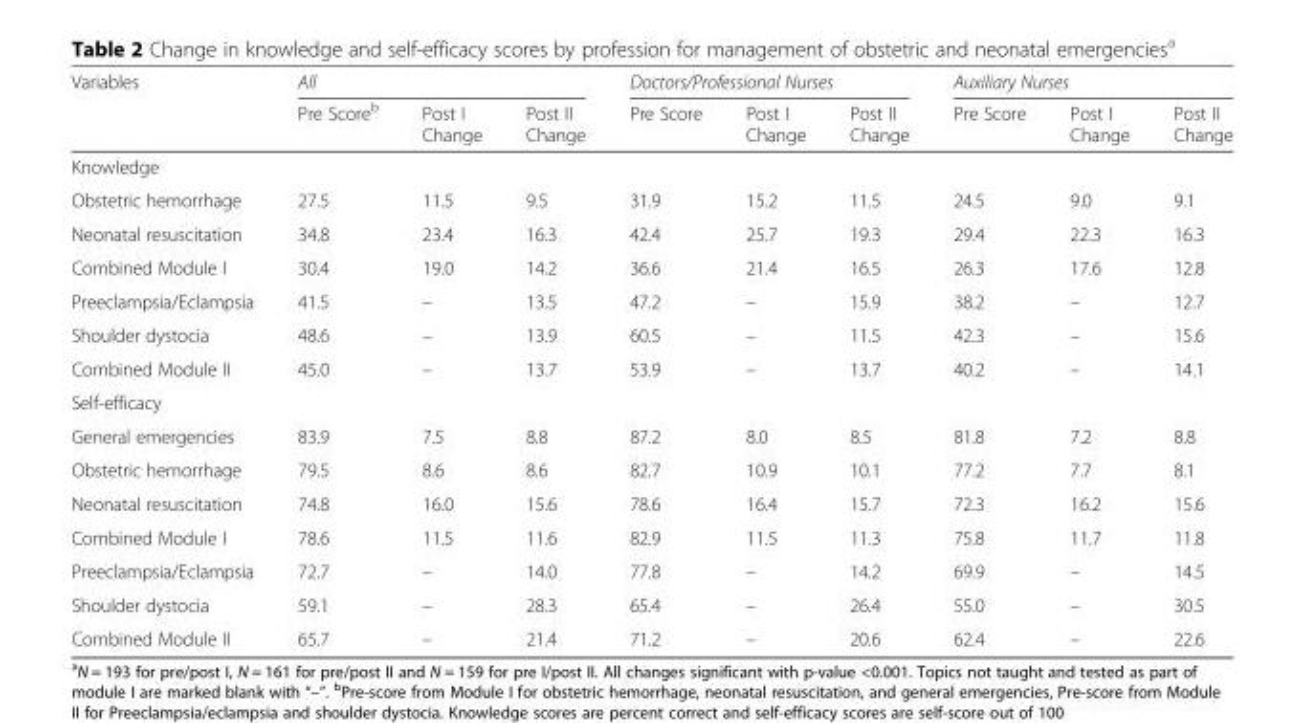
<table><thead><tr><td rowspan="2">Variables</td><td colspan="3">All</td><td colspan="3">Doctors/Professional Nurses</td><td colspan="3">Auxiliary Nurses</td></tr><tr><td>Pre Score<sup>b</sup></td><td>Post I Change</td><td>Post II Change</td><td>Pre Score</td><td>Post I Change</td><td>Post II Change</td><td>Pre Score</td><td>Post I Change</td><td>Post II Change</td></tr></thead><tbody><tr><td colspan="10">Knowledge</td></tr><tr><td>Obstetric hemorrhage</td><td>27.5</td><td>11.5</td><td>9.5</td><td>31.9</td><td>15.2</td><td>11.5</td><td>24.5</td><td>9.0</td><td>9.1</td></tr><tr><td>Neonatal resuscitation</td><td>34.8</td><td>23.4</td><td>16.3</td><td>42.4</td><td>25.7</td><td>19.3</td><td>29.4</td><td>22.3</td><td>16.3</td></tr><tr><td>Combined Module I</td><td>30.4</td><td>19.0</td><td>14.2</td><td>36.6</td><td>21.4</td><td>16.5</td><td>26.3</td><td>17.6</td><td>12.8</td></tr><tr><td>Preeclampsia/Eclampsia</td><td>41.5</td><td>–</td><td>13.5</td><td>47.2</td><td>–</td><td>15.9</td><td>38.2</td><td>–</td><td>12.7</td></tr><tr><td>Shoulder dystocia</td><td>48.6</td><td>–</td><td>13.9</td><td>60.5</td><td>–</td><td>11.5</td><td>42.3</td><td>–</td><td>15.6</td></tr><tr><td>Combined Module II</td><td>45.0</td><td>–</td><td>13.7</td><td>53.9</td><td>–</td><td>13.7</td><td>40.2</td><td>–</td><td>14.1</td></tr><tr><td colspan="10">Self-efficacy</td></tr><tr><td>General emergencies</td><td>83.9</td><td>7.5</td><td>8.8</td><td>87.2</td><td>8.0</td><td>8.5</td><td>81.8</td><td>7.2</td><td>8.8</td></tr><tr><td>Obstetric hemorrhage</td><td>79.5</td><td>8.6</td><td>8.6</td><td>82.7</td><td>10.9</td><td>10.1</td><td>77.2</td><td>7.7</td><td>8.1</td></tr><tr><td>Neonatal resuscitation</td><td>74.8</td><td>16.0</td><td>15.6</td><td>78.6</td><td>16.4</td><td>15.7</td><td>72.3</td><td>16.2</td><td>15.6</td></tr><tr><td>Combined Module I</td><td>78.6</td><td>11.5</td><td>11.6</td><td>82.9</td><td>11.5</td><td>11.3</td><td>75.8</td><td>11.7</td><td>11.8</td></tr><tr><td>Preeclampsia/Eclampsia</td><td>72.7</td><td>–</td><td>14.0</td><td>77.8</td><td>–</td><td>14.2</td><td>69.9</td><td>–</td><td>14.5</td></tr><tr><td>Shoulder dystocia</td><td>59.1</td><td>–</td><td>28.3</td><td>65.4</td><td>–</td><td>26.4</td><td>55.0</td><td>–</td><td>30.5</td></tr><tr><td>Combined Module II</td><td>65.7</td><td>–</td><td>21.4</td><td>71.2</td><td>–</td><td>20.6</td><td>62.4</td><td>–</td><td>22.6</td></tr></tbody></table>